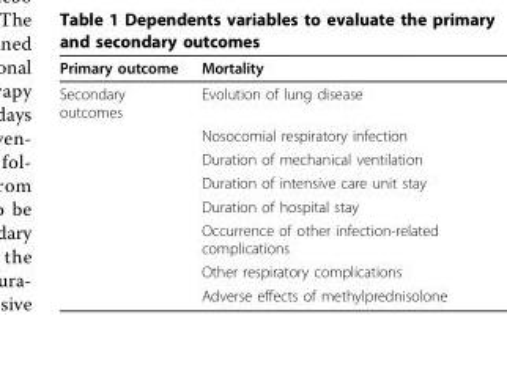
<table><thead><tr><td>Primary outcome</td><td>Mortality</td></tr></thead><tbody><tr><td rowspan="8">Secondary outcomes</td><td>Evolution of lung disease</td></tr><tr><td>Nosocomial respiratory infection</td></tr><tr><td>Duration of mechanical ventilation</td></tr><tr><td>Duration of intensive care unit stay</td></tr><tr><td>Duration of hospital stay</td></tr><tr><td>Occurrence of other infection-related complications</td></tr><tr><td>Other respiratory complications</td></tr><tr><td>Adverse effects of methylprednisolone</td></tr></tbody></table>